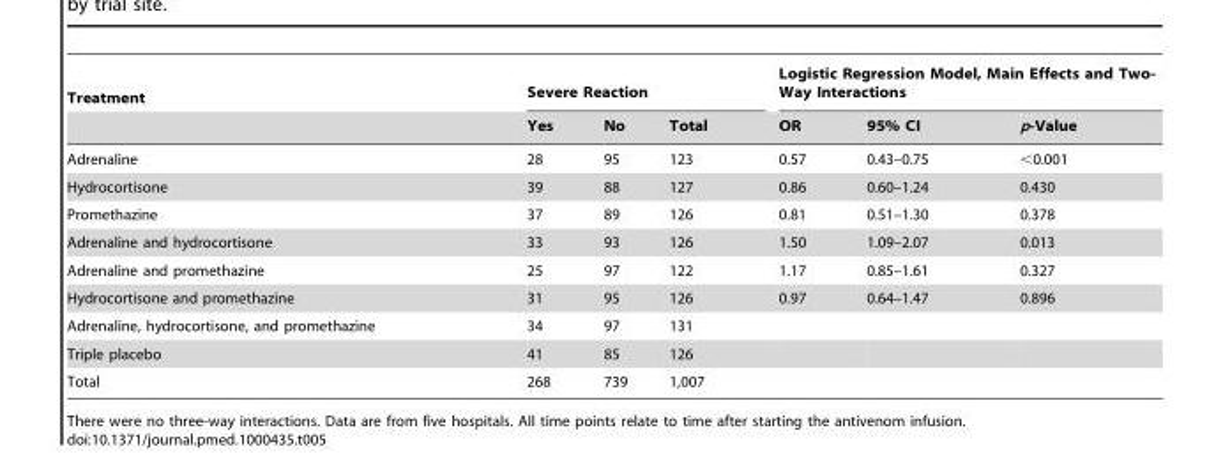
<table><thead><tr><td rowspan="2">Treatment</td><td colspan="3">Severe Reaction</td><td colspan="3">Logistic Regression Model, Main Effects and Two- Way Interactions</td></tr><tr><td>Yes</td><td>No</td><td>Total</td><td>OR</td><td>95% CI</td><td>p-Value</td></tr></thead><tbody><tr><td>Adrenaline</td><td>28</td><td>95</td><td>123</td><td>0.57</td><td>0.43–0.75</td><td>&lt;0.001</td></tr><tr><td>Hydrocortisone</td><td>39</td><td>88</td><td>127</td><td>0.86</td><td>0.60–1.24</td><td>0.430</td></tr><tr><td>Promethazine</td><td>37</td><td>89</td><td>126</td><td>0.81</td><td>0.51–1.30</td><td>0.378</td></tr><tr><td>Adrenaline and hydrocortisone</td><td>33</td><td>93</td><td>126</td><td>1.50</td><td>1.09–2.07</td><td>0.013</td></tr><tr><td>Adrenaline and promethazine</td><td>25</td><td>97</td><td>122</td><td>1.17</td><td>0.85–1.61</td><td>0.327</td></tr><tr><td>Hydrocortisone and promethazine</td><td>31</td><td>95</td><td>126</td><td>0.97</td><td>0.64–1.47</td><td>0.896</td></tr><tr><td>Adrenaline, hydrocortisone, and promethazine</td><td>34</td><td>97</td><td>131</td><td></td><td></td><td></td></tr><tr><td>Triple placebo</td><td>41</td><td>85</td><td>126</td><td></td><td></td><td></td></tr><tr><td>Total</td><td>268</td><td>739</td><td>1,007</td><td></td><td></td><td></td></tr></tbody></table>